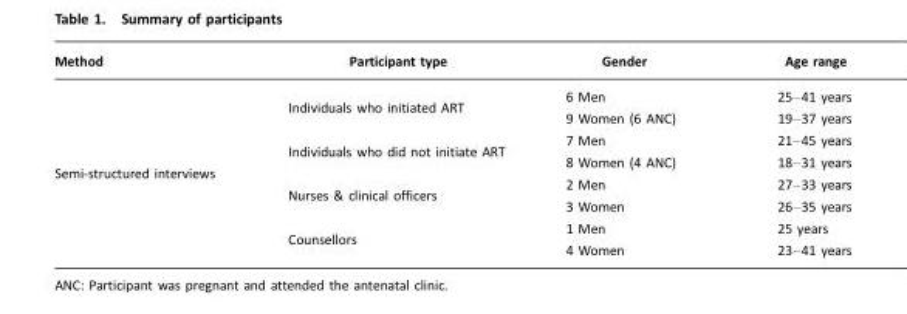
<table><thead><tr><td>Method</td><td>Participant type</td><td>Gender</td><td>Age range</td></tr></thead><tbody><tr><td rowspan="8">Semi-structured interviews</td><td rowspan="2">Individuals who initiated ART</td><td>6 Men</td><td>25–41 years</td></tr><tr><td>9 Women (6 ANC)</td><td>19–37 years</td></tr><tr><td rowspan="2">Individuals who did not initiate ART</td><td>7 Men</td><td>21–45 years</td></tr><tr><td>8 Women (4 ANC)</td><td>18–31 years</td></tr><tr><td rowspan="2">Nurses &amp; clinical officers</td><td>2 Men</td><td>27–33 years</td></tr><tr><td>3 Women</td><td>26–35 years</td></tr><tr><td rowspan="2">Counsellors</td><td>1 Men</td><td>25 years</td></tr><tr><td>4 Women</td><td>23–41 years</td></tr></tbody></table>